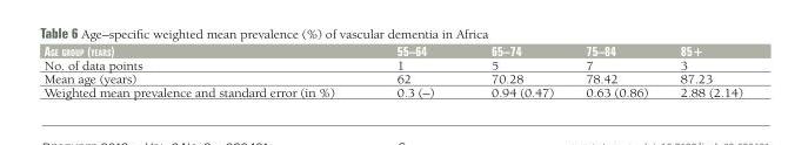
<table><thead><tr><td>age group (years)</td><td>55–64</td><td>65–74</td><td>75–84</td><td>85+</td></tr></thead><tbody><tr><td>No. of data points</td><td>1</td><td>5</td><td>7</td><td>3</td></tr><tr><td>Mean age (years)</td><td>62</td><td>70.28</td><td>78.42</td><td>87.23</td></tr><tr><td>Weighted mean prevalence and standard error (in %)</td><td>0.3 (–)</td><td>0.94 (0.47)</td><td>0.63 (0.86)</td><td>2.88 (2.14)</td></tr></tbody></table>